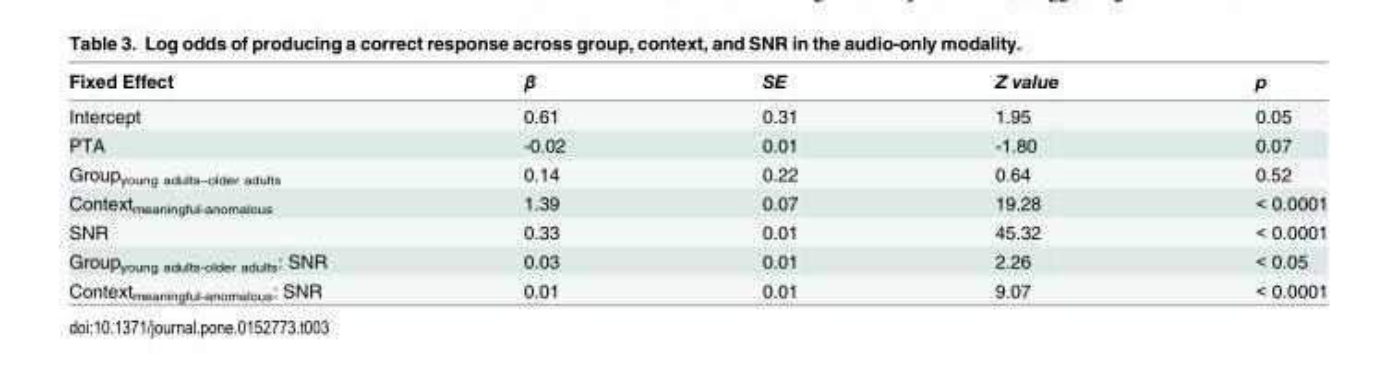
<table><thead><tr><td>Fixed Effect</td><td>β</td><td>SE</td><td>Z value</td><td>p</td></tr></thead><tbody><tr><td>Intercept</td><td>0.61</td><td>0.31</td><td>1.95</td><td>0.05</td></tr><tr><td>PTA</td><td>-0.02</td><td>0.01</td><td>-1.80</td><td>0.07</td></tr><tr><td>Group<sub>young adults–older adults</sub></td><td>0.14</td><td>0.22</td><td>0.64</td><td>0.52</td></tr><tr><td>Context<sub>meaningful-anomalous</sub></td><td>1.39</td><td>0.07</td><td>19.28</td><td>&lt; 0.0001</td></tr><tr><td>SNR</td><td>0.33</td><td>0.01</td><td>45.32</td><td>&lt; 0.0001</td></tr><tr><td>Group<sub>young adults-older adults</sub>: SNR</td><td>0.03</td><td>0.01</td><td>2.26</td><td>&lt; 0.05</td></tr><tr><td>Context<sub>meaningful-anomalous</sub>: SNR</td><td>0.01</td><td>0.01</td><td>9.07</td><td>&lt; 0.0001</td></tr></tbody></table>